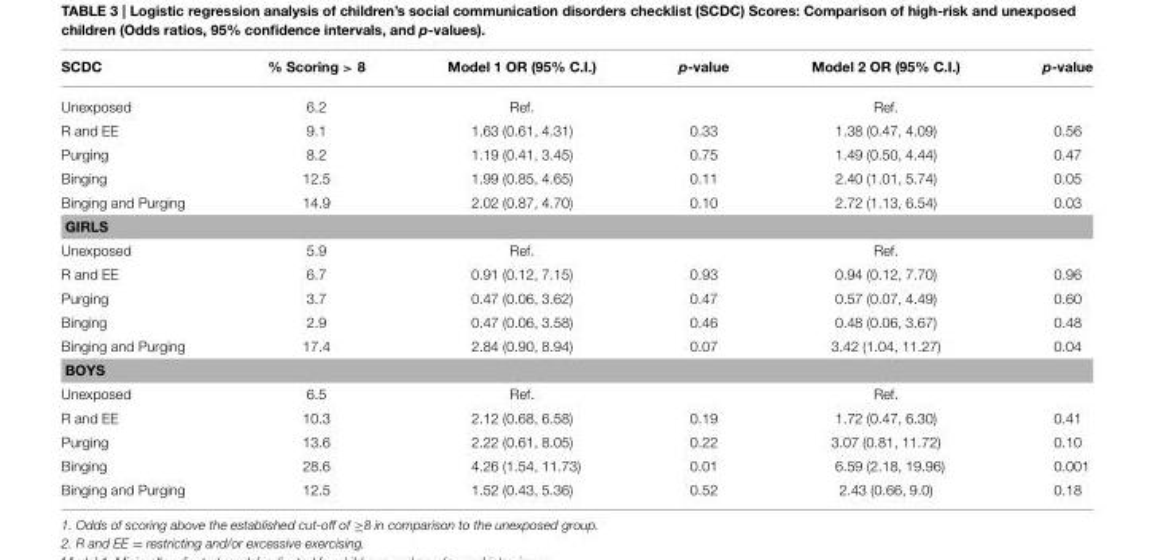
<table><thead><tr><td>SCDC</td><td>% Scoring &gt; 8</td><td>Model 1 OR (95% C.I.)</td><td>p-value</td><td>Model 2 OR (95% C.I.)</td><td>p-value</td></tr></thead><tbody><tr><td>Unexposed</td><td>6.2</td><td>Ref.</td><td></td><td>Ref.</td><td></td></tr><tr><td>R and EE</td><td>9.1</td><td>1.63 (0.61, 4.31)</td><td>0.33</td><td>1.38 (0.47, 4.09)</td><td>0.56</td></tr><tr><td>Purging</td><td>8.2</td><td>1.19 (0.41, 3.45)</td><td>0.75</td><td>1.49 (0.50, 4.44)</td><td>0.47</td></tr><tr><td>Binging</td><td>12.5</td><td>1.99 (0.85, 4.65)</td><td>0.11</td><td>2.40 (1.01, 5.74)</td><td>0.05</td></tr><tr><td>Binging and Purging</td><td>14.9</td><td>2.02 (0.87, 4.70)</td><td>0.10</td><td>2.72 (1.13, 6.54)</td><td>0.03</td></tr><tr><td colspan="6">GIRLS</td></tr><tr><td>Unexposed</td><td>5.9</td><td>Ref.</td><td></td><td>Ref.</td><td></td></tr><tr><td>R and EE</td><td>6.7</td><td>0.91 (0.12, 7.15)</td><td>0.93</td><td>0.94 (0.12, 7.70)</td><td>0.96</td></tr><tr><td>Purging</td><td>3.7</td><td>0.47 (0.06, 3.62)</td><td>0.47</td><td>0.57 (0.07, 4.49)</td><td>0.60</td></tr><tr><td>Binging</td><td>2.9</td><td>0.47 (0.06, 3.58)</td><td>0.46</td><td>0.48 (0.06, 3.67)</td><td>0.48</td></tr><tr><td>Binging and Purging</td><td>17.4</td><td>2.84 (0.90, 8.94)</td><td>0.07</td><td>3.42 (1.04, 11.27)</td><td>0.04</td></tr><tr><td colspan="6">BOYS</td></tr><tr><td>Unexposed</td><td>6.5</td><td>Ref.</td><td></td><td>Ref.</td><td></td></tr><tr><td>R and EE</td><td>10.3</td><td>2.12 (0.68, 6.58)</td><td>0.19</td><td>1.72 (0.47, 6.30)</td><td>0.41</td></tr><tr><td>Purging</td><td>13.6</td><td>2.22 (0.61, 8.05)</td><td>0.22</td><td>3.07 (0.81, 11.72)</td><td>0.10</td></tr><tr><td>Binging</td><td>28.6</td><td>4.26 (1.54, 11.73)</td><td>0.01</td><td>6.59 (2.18, 19.96)</td><td>0.001</td></tr><tr><td>Binging and Purging</td><td>12.5</td><td>1.52 (0.43, 5.36)</td><td>0.52</td><td>2.43 (0.66, 9.0)</td><td>0.18</td></tr></tbody></table>